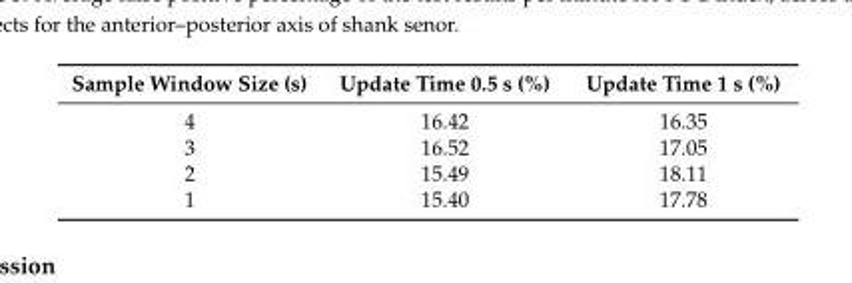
<table><thead><tr><td>Sample Window Size (s)</td><td>Update Time 0.5 s (%)</td><td>Update Time 1 s (%)</td></tr></thead><tbody><tr><td>4</td><td>16.42</td><td>16.35</td></tr><tr><td>3</td><td>16.52</td><td>17.05</td></tr><tr><td>2</td><td>15.49</td><td>18.11</td></tr><tr><td>1</td><td>15.40</td><td>17.78</td></tr></tbody></table>